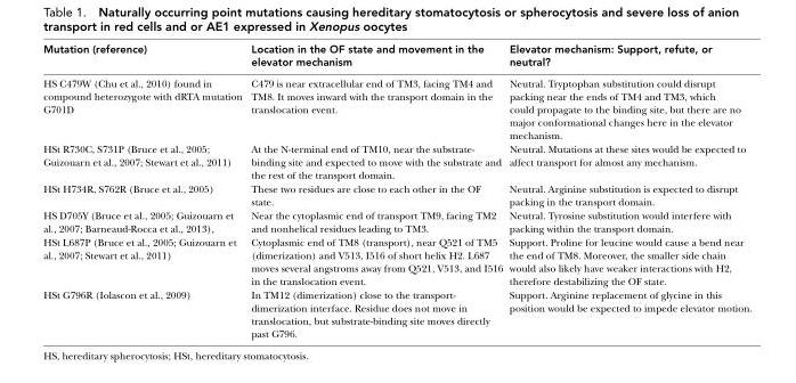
<table><thead><tr><td>Mutation (reference)</td><td>location in the oF state and movement in the elevator mechanism</td><td>Elevator mechanism: Support, refute, or neutral?</td></tr></thead><tbody><tr><td>HS C479W (Chu et al., 2010) found in compound heterozygote with dRTA mutation G701D</td><td>C479 is near extracellular end of TM3, facing TM4 and TM8. It moves inward with the transport domain in the translocation event.</td><td>Neutral. Tryptophan substitution could disrupt packing near the ends of TM4 and TM3, which could propagate to the binding site, but there are no major conformational changes here in the elevator mechanism.</td></tr><tr><td>HSt R730C, S731P (Bruce et al., 2005; Guizouarn et al., 2007; Stewart et al., 2011)</td><td>At the N-terminal end of TM10, near the substrate- binding site and expected to move with the substrate and the rest of the transport domain.</td><td>Neutral. Mutations at these sites would be expected to affect transport for almost any mechanism.</td></tr><tr><td>HSt H734R, S762R (Bruce et al., 2005)</td><td>These two residues are close to each other in the OF state.</td><td>Neutral. Arginine substitution is expected to disrupt packing in the transport domain.</td></tr><tr><td>HS D705Y (Bruce et al., 2005; Guizouarn et al., 2007; Barneaud-Rocca et al., 2013),</td><td>Near the cytoplasmic end of transport TM9, facing TM2 and nonhelical residues leading to TM3.</td><td>Neutral. Tyrosine substitution would interfere with packing within the transport domain.</td></tr><tr><td>HSt L687P (Bruce et al., 2005; Guizouarn et al., 2007; Stewart et al., 2011)</td><td>Cytoplasmic end of TM8 (transport), near Q521 of TM5 (dimerization) and V513, I516 of short helix H2. L687 moves several angstroms away from Q521, V513, and I516 in the translocation event.</td><td>Support. Proline for leucine would cause a bend near the end of TM8. Moreover, the smaller side chain would also likely have weaker interactions with H2, therefore destabilizing the OF state.</td></tr><tr><td>HSt G796R (Iolascon et al., 2009)</td><td>In TM12 (dimerization) close to the transport- dimerization interface. Residue does not move in translocation, but substrate-binding site moves directly past G796.</td><td>Support. Arginine replacement of glycine in this position would be expected to impede elevator motion.</td></tr></tbody></table>